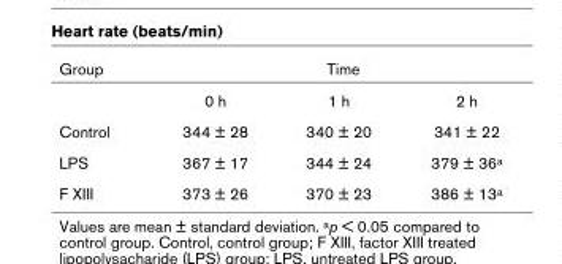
<table><thead><tr><td rowspan="2">Group</td><td colspan="3">Time</td></tr><tr><td>0 h</td><td>1 h</td><td>2 h</td></tr></thead><tbody><tr><td>Control</td><td>344 ± 28</td><td>340 ± 20</td><td>341 ± 22</td></tr><tr><td>LPS</td><td>367 ± 17</td><td>344 ± 24</td><td>379 ± 36a</td></tr><tr><td>F XIII</td><td>373 ± 26</td><td>370 ± 23</td><td>386 ± 13a</td></tr></tbody></table>